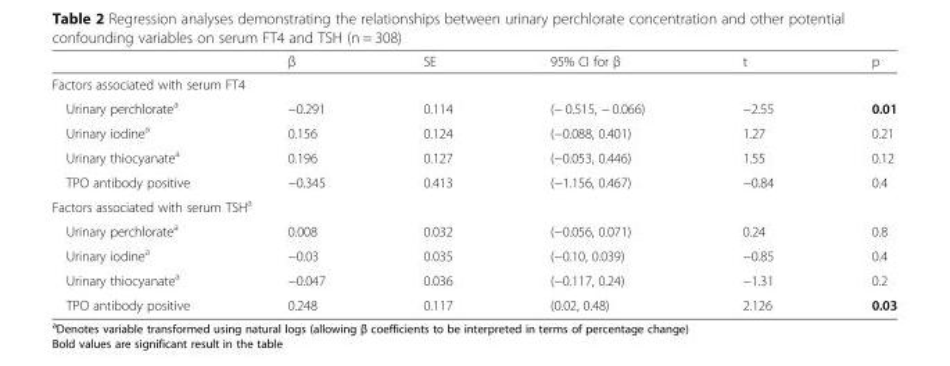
<table><thead><tr><td></td><td>β</td><td>SE</td><td>95% CI for β</td><td>t</td><td>p</td></tr></thead><tbody><tr><td colspan="6">Factors associated with serum FT4</td></tr><tr><td>Urinary perchlorate<sup>a</sup></td><td>−0.291</td><td>0.114</td><td>(− 0.515, − 0.066)</td><td>−2.55</td><td>0.01</td></tr><tr><td>Urinary iodine<sup>a</sup></td><td>0.156</td><td>0.124</td><td>(−0.088, 0.401)</td><td>1.27</td><td>0.21</td></tr><tr><td>Urinary thiocyanate<sup>a</sup></td><td>0.196</td><td>0.127</td><td>(−0.053, 0.446)</td><td>1.55</td><td>0.12</td></tr><tr><td>TPO antibody positive</td><td>−0.345</td><td>0.413</td><td>(−1.156, 0.467)</td><td>−0.84</td><td>0.4</td></tr><tr><td colspan="6">Factors associated with serum TSH<sup>a</sup></td></tr><tr><td>Urinary perchlorate<sup>a</sup></td><td>0.008</td><td>0.032</td><td>(−0.056, 0.071)</td><td>0.24</td><td>0.8</td></tr><tr><td>Urinary iodine<sup>a</sup></td><td>−0.03</td><td>0.035</td><td>(−0.10, 0.039)</td><td>−0.85</td><td>0.4</td></tr><tr><td>Urinary thiocyanate<sup>a</sup></td><td>−0.047</td><td>0.036</td><td>(−0.117, 0.24)</td><td>−1.31</td><td>0.2</td></tr><tr><td>TPO antibody positive</td><td>0.248</td><td>0.117</td><td>(0.02, 0.48)</td><td>2.126</td><td>0.03</td></tr></tbody></table>